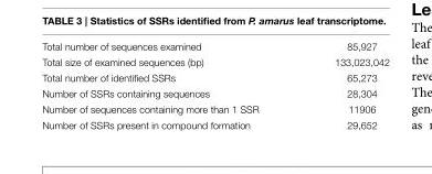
<table><tbody><tr><td>Total number of sequences examined</td><td>85,927</td></tr><tr><td>Total size of examined sequences (bp)</td><td>133,023,042</td></tr><tr><td>Total number of identified SSRs</td><td>65,273</td></tr><tr><td>Number of SSRs containing sequences</td><td>28,304</td></tr><tr><td>Number of sequences containing more than 1 SSR</td><td>11906</td></tr><tr><td>Number of SSRs present in compound formation</td><td>29,652</td></tr></tbody></table>